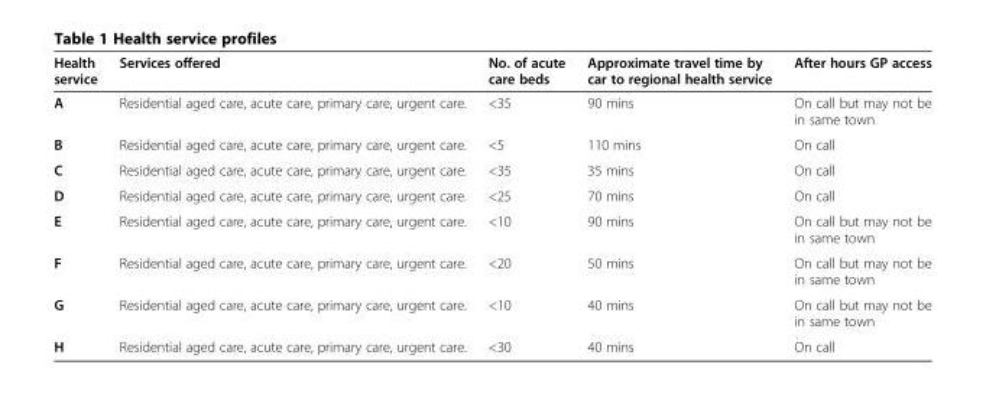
<table><thead><tr><td>Health service</td><td>Services offered</td><td>No. of acute care beds</td><td>Approximate travel time by car to regional health service</td><td>After hours GP access</td></tr></thead><tbody><tr><td>A</td><td>Residential aged care, acute care, primary care, urgent care.</td><td>&lt;35</td><td>90 mins</td><td>On call but may not be in same town</td></tr><tr><td>B</td><td>Residential aged care, acute care, primary care, urgent care.</td><td>&lt;5</td><td>110 mins</td><td>On call</td></tr><tr><td>C</td><td>Residential aged care, acute care, primary care, urgent care.</td><td>&lt;35</td><td>35 mins</td><td>On call</td></tr><tr><td>D</td><td>Residential aged care, acute care, primary care, urgent care.</td><td>&lt;25</td><td>70 mins</td><td>On call</td></tr><tr><td>E</td><td>Residential aged care, acute care, primary care, urgent care.</td><td>&lt;10</td><td>90 mins</td><td>On call but may not be in same town</td></tr><tr><td>F</td><td>Residential aged care, acute care, primary care, urgent care.</td><td>&lt;20</td><td>50 mins</td><td>On call but may not be in same town</td></tr><tr><td>G</td><td>Residential aged care, acute care, primary care, urgent care.</td><td>&lt;10</td><td>40 mins</td><td>On call but may not be in same town</td></tr><tr><td>H</td><td>Residential aged care, acute care, primary care, urgent care.</td><td>&lt;30</td><td>40 mins</td><td>On call</td></tr></tbody></table>